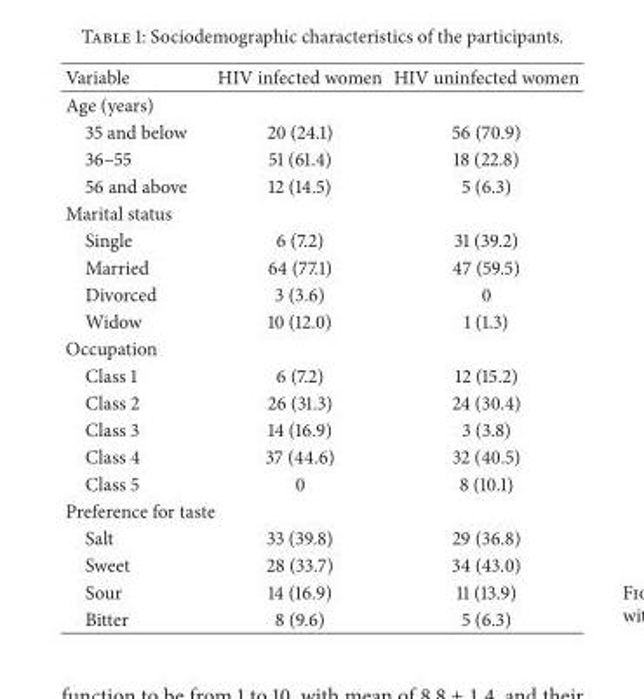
<table><thead><tr><td>Variable</td><td>HIV infected women</td><td>HIV uninfected women</td></tr></thead><tbody><tr><td colspan="3">Age (years)</td></tr><tr><td>35 and below</td><td>20 (24.1)</td><td>56 (70.9)</td></tr><tr><td>36–55</td><td>51 (61.4)</td><td>18 (22.8)</td></tr><tr><td>56 and above</td><td>12 (14.5)</td><td>5 (6.3)</td></tr><tr><td colspan="3">Marital status</td></tr><tr><td>Single</td><td>6 (7.2)</td><td>31 (39.2)</td></tr><tr><td>Married</td><td>64 (77.1)</td><td>47 (59.5)</td></tr><tr><td>Divorced</td><td>3 (3.6)</td><td>0</td></tr><tr><td>Widow</td><td>10 (12.0)</td><td>1 (1.3)</td></tr><tr><td colspan="3">Occupation</td></tr><tr><td>Class 1</td><td>6 (7.2)</td><td>12 (15.2)</td></tr><tr><td>Class 2</td><td>26 (31.3)</td><td>24 (30.4)</td></tr><tr><td>Class 3</td><td>14 (16.9)</td><td>3 (3.8)</td></tr><tr><td>Class 4</td><td>37 (44.6)</td><td>32 (40.5)</td></tr><tr><td>Class 5</td><td>0</td><td>8 (10.1)</td></tr><tr><td colspan="3">Preference for taste</td></tr><tr><td>Salt</td><td>33 (39.8)</td><td>29 (36.8)</td></tr><tr><td>Sweet</td><td>28 (33.7)</td><td>34 (43.0)</td></tr><tr><td>Sour</td><td>14 (16.9)</td><td>11 (13.9)</td></tr><tr><td>Bitter</td><td>8 (9.6)</td><td>5 (6.3)</td></tr></tbody></table>